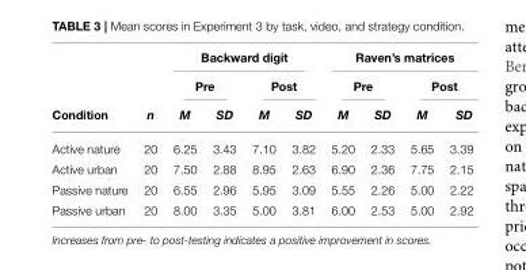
<table><thead><tr><td rowspan="3">Condition</td><td rowspan="3">n</td><td colspan="4">Backward digit</td><td colspan="4">Raven’s matrices</td></tr><tr><td colspan="2">Pre</td><td colspan="2">Post</td><td colspan="2">Pre</td><td colspan="2">Post</td></tr><tr><td>M</td><td>SD</td><td>M</td><td>SD</td><td>M</td><td>SD</td><td>M</td><td>SD</td></tr></thead><tbody><tr><td>Active nature</td><td>20</td><td>6.25</td><td>3.43</td><td>7.10</td><td>3.82</td><td>5.20</td><td>2.33</td><td>5.65</td><td>3.39</td></tr><tr><td>Active urban</td><td>20</td><td>7.50</td><td>2.88</td><td>8.95</td><td>2.63</td><td>6.90</td><td>2.36</td><td>7.75</td><td>2.15</td></tr><tr><td>Passive nature</td><td>20</td><td>6.55</td><td>2.96</td><td>5.95</td><td>3.09</td><td>5.55</td><td>2.26</td><td>5.00</td><td>2.22</td></tr><tr><td>Passive urban</td><td>20</td><td>8.00</td><td>3.35</td><td>5.00</td><td>3.81</td><td>6.00</td><td>2.53</td><td>5.00</td><td>2.92</td></tr></tbody></table>